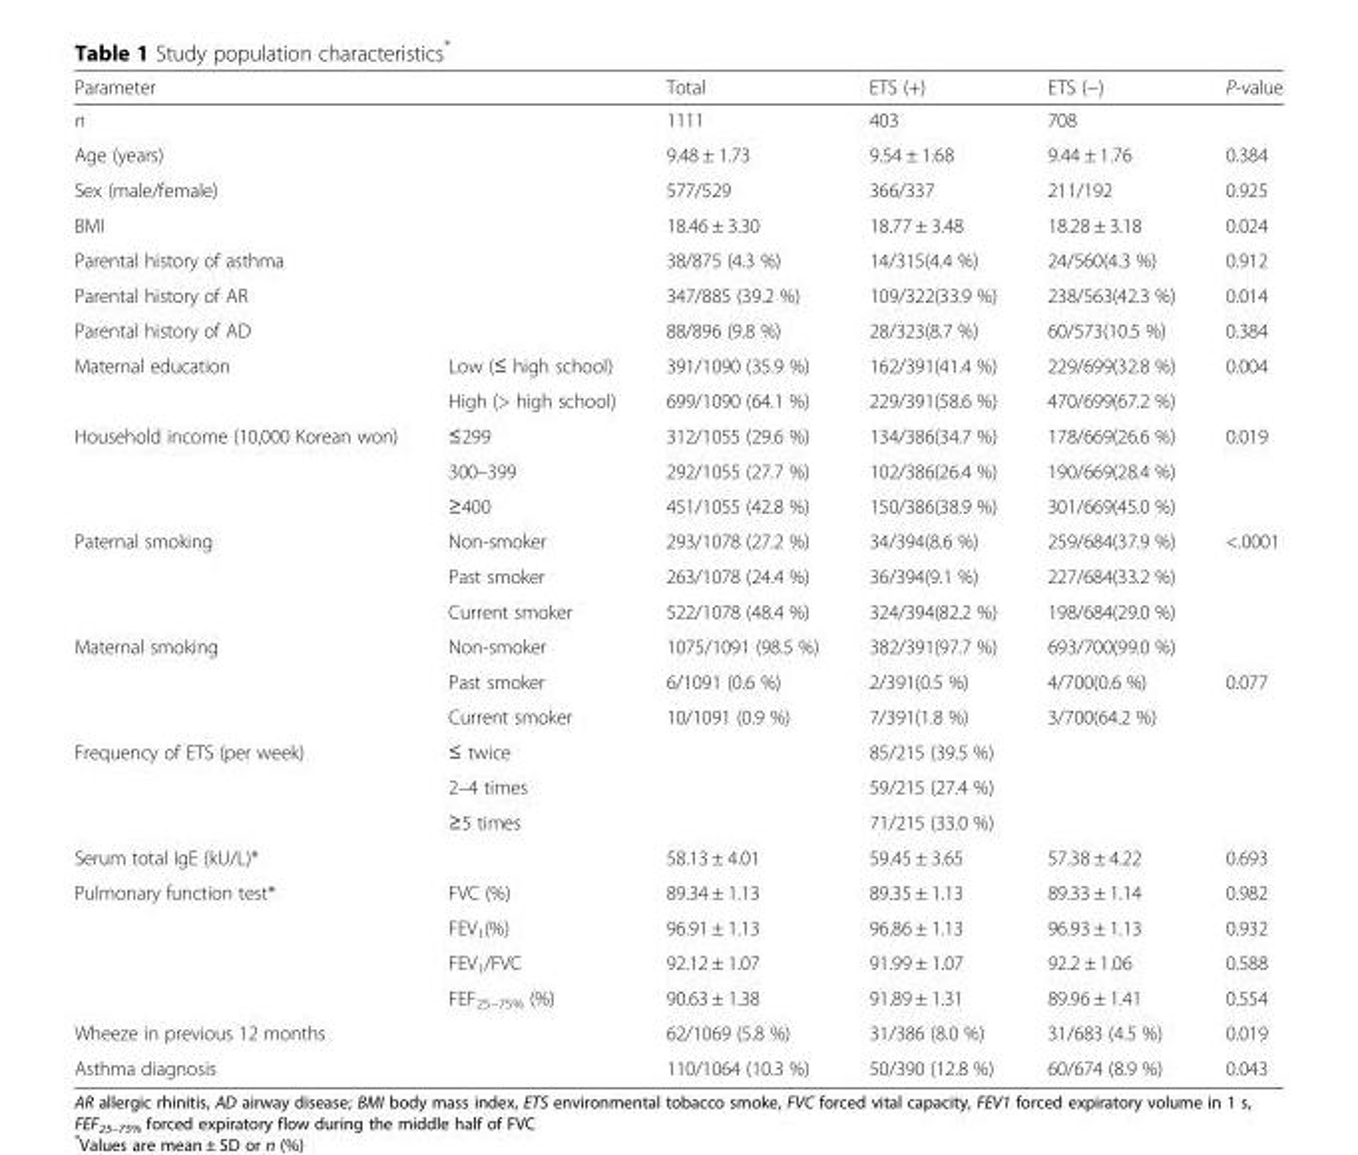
<table><thead><tr><td colspan="2">Parameter</td><td>Total</td><td>ETS (+)</td><td>ETS (−)</td><td>P-value</td></tr></thead><tbody><tr><td colspan="2">n</td><td>1111</td><td>403</td><td>708</td><td></td></tr><tr><td colspan="2">Age (years)</td><td>9.48 ± 1.73</td><td>9.54 ± 1.68</td><td>9.44 ± 1.76</td><td>0.384</td></tr><tr><td colspan="2">Sex (male/female)</td><td>577/529</td><td>366/337</td><td>211/192</td><td>0.925</td></tr><tr><td colspan="2">BMI</td><td>18.46 ± 3.30</td><td>18.77 ± 3.48</td><td>18.28 ± 3.18</td><td>0.024</td></tr><tr><td colspan="2">Parental history of asthma</td><td>38/875 (4.3 %)</td><td>14/315(4.4 %)</td><td>24/560(4.3 %)</td><td>0.912</td></tr><tr><td colspan="2">Parental history of AR</td><td>347/885 (39.2 %)</td><td>109/322(33.9 %)</td><td>238/563(42.3 %)</td><td>0.014</td></tr><tr><td colspan="2">Parental history of AD</td><td>88/896 (9.8 %)</td><td>28/323(8.7 %)</td><td>60/573(10.5 %)</td><td>0.384</td></tr><tr><td rowspan="2">Maternal education</td><td>Low (≤ high school)</td><td>391/1090 (35.9 %)</td><td>162/391(41.4 %)</td><td>229/699(32.8 %)</td><td>0.004</td></tr><tr><td>High (&gt; high school)</td><td>699/1090 (64.1 %)</td><td>229/391(58.6 %)</td><td>470/699(67.2 %)</td><td></td></tr><tr><td rowspan="3">Household income (10,000 Korean won)</td><td>≤299</td><td>312/1055 (29.6 %)</td><td>134/386(34.7 %)</td><td>178/669(26.6 %)</td><td>0.019</td></tr><tr><td>300–399</td><td>292/1055 (27.7 %)</td><td>102/386(26.4 %)</td><td>190/669(28.4 %)</td><td></td></tr><tr><td>≥400</td><td>451/1055 (42.8 %)</td><td>150/386(38.9 %)</td><td>301/669(45.0 %)</td><td></td></tr><tr><td rowspan="3">Paternal smoking</td><td>Non-smoker</td><td>293/1078 (27.2 %)</td><td>34/394(8.6 %)</td><td>259/684(37.9 %)</td><td>&lt;.0001</td></tr><tr><td>Past smoker</td><td>263/1078 (24.4 %)</td><td>36/394(9.1 %)</td><td>227/684(33.2 %)</td><td></td></tr><tr><td>Current smoker</td><td>522/1078 (48.4 %)</td><td>324/394(82.2 %)</td><td>198/684(29.0 %)</td><td></td></tr><tr><td rowspan="3">Maternal smoking</td><td>Non-smoker</td><td>1075/1091 (98.5 %)</td><td>382/391(97.7 %)</td><td>693/700(99.0 %)</td><td></td></tr><tr><td>Past smoker</td><td>6/1091 (0.6 %)</td><td>2/391(0.5 %)</td><td>4/700(0.6 %)</td><td>0.077</td></tr><tr><td>Current smoker</td><td>10/1091 (0.9 %)</td><td>7/391(1.8 %)</td><td>3/700(64.2 %)</td><td></td></tr><tr><td rowspan="3">Frequency of ETS (per week)</td><td>≤ twice</td><td></td><td>85/215 (39.5 %)</td><td></td><td></td></tr><tr><td>2–4 times</td><td></td><td>59/215 (27.4 %)</td><td></td><td></td></tr><tr><td>≥5 times</td><td></td><td>71/215 (33.0 %)</td><td></td><td></td></tr><tr><td>Serum total IgE (kU/L)*</td><td></td><td>58.13 ± 4.01</td><td>59.45 ± 3.65</td><td>57.38 ± 4.22</td><td>0.693</td></tr><tr><td rowspan="4">Pulmonary function test*</td><td>FVC (%)</td><td>89.34 ± 1.13</td><td>89.35 ± 1.13</td><td>89.33 ± 1.14</td><td>0.982</td></tr><tr><td>FEV<sub>1</sub>(%)</td><td>96.91 ± 1.13</td><td>96.86 ± 1.13</td><td>96.93 ± 1.13</td><td>0.932</td></tr><tr><td>FEV<sub>1</sub>/FVC</td><td>92.12 ± 1.07</td><td>91.99 ± 1.07</td><td>92.2 ± 1.06</td><td>0.588</td></tr><tr><td>FEF<sub>25–75%</sub> (%)</td><td>90.63 ± 1.38</td><td>91.89 ± 1.31</td><td>89.96 ± 1.41</td><td>0.554</td></tr><tr><td>Wheeze in previous 12 months</td><td></td><td>62/1069 (5.8 %)</td><td>31/386 (8.0 %)</td><td>31/683 (4.5 %)</td><td>0.019</td></tr><tr><td>Asthma diagnosis</td><td></td><td>110/1064 (10.3 %)</td><td>50/390 (12.8 %)</td><td>60/674 (8.9 %)</td><td>0.043</td></tr></tbody></table>